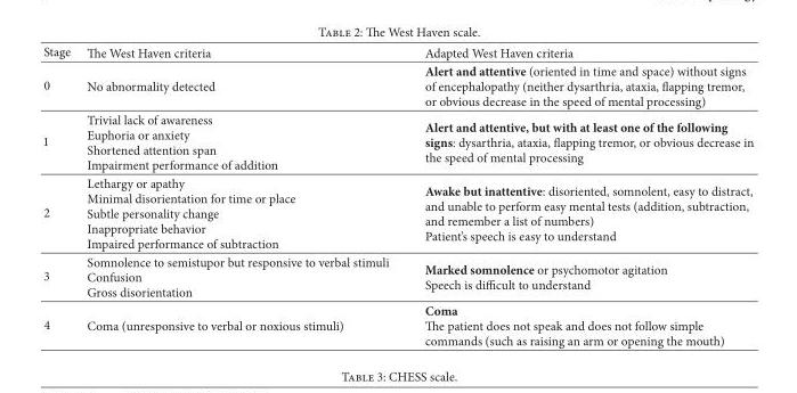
<table><thead><tr><td>Stage</td><td>The West Haven criteria</td><td>Adapted West Haven criteria</td></tr></thead><tbody><tr><td>0</td><td>No abnormality detected</td><td>Alert and attentive (oriented in time and space) without signs of encephalopathy (neither dysarthria, ataxia, flapping tremor, or obvious decrease in the speed of mental processing)</td></tr><tr><td>1</td><td>Trivial lack of awareness Euphoria or anxiety Shortened attention span Impairment performance of addition</td><td>Alert and attentive, but with at least one of the following signs: dysarthria, ataxia, flapping tremor, or obvious decrease in the speed of mental processing</td></tr><tr><td>2</td><td>Lethargy or apathy Minimal disorientation for time or place Subtle personality change Inappropriate behavior Impaired performance of subtraction</td><td>Awake but inattentive: disoriented, somnolent, easy to distract, and unable to perform easy mental tests (addition, subtraction, and remember a list of numbers) Patient’s speech is easy to understand</td></tr><tr><td>3</td><td>Somnolence to semistupor but responsive to verbal stimuli Confusion Gross disorientation</td><td>Marked somnolence or psychomotor agitation Speech is difficult to understand</td></tr><tr><td>4</td><td>Coma (unresponsive to verbal or noxious stimuli)</td><td>Coma The patient does not speak and does not follow simple commands (such as raising an arm or opening the mouth)</td></tr></tbody></table>